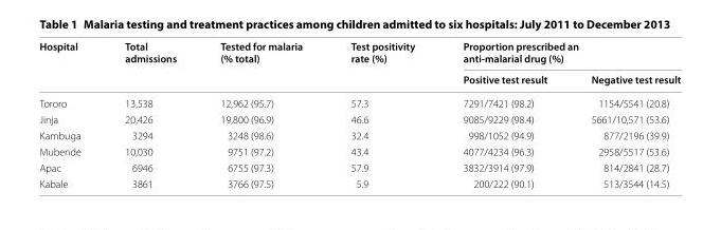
<table><thead><tr><td rowspan="2">Hospital</td><td rowspan="2">Total admissions</td><td rowspan="2">Tested for malaria (% total)</td><td rowspan="2">Test positivity rate (%)</td><td colspan="2">Proportion prescribed an anti‑malarial drug (%)</td></tr><tr><td>Positive test result</td><td>Negative test result</td></tr></thead><tbody><tr><td>Tororo</td><td>13,538</td><td>12,962 (95.7)</td><td>57.3</td><td>7291/7421 (98.2)</td><td>1154/5541 (20.8)</td></tr><tr><td>Jinja</td><td>20,426</td><td>19,800 (96.9)</td><td>46.6</td><td>9085/9229 (98.4)</td><td>5661/10,571 (53.6)</td></tr><tr><td>Kambuga</td><td>3294</td><td>3248 (98.6)</td><td>32.4</td><td>998/1052 (94.9)</td><td>877/2196 (39.9)</td></tr><tr><td>Mubende</td><td>10,030</td><td>9751 (97.2)</td><td>43.4</td><td>4077/4234 (96.3)</td><td>2958/5517 (53.6)</td></tr><tr><td>Apac</td><td>6946</td><td>6755 (97.3)</td><td>57.9</td><td>3832/3914 (97.9)</td><td>814/2841 (28.7)</td></tr><tr><td>Kabale</td><td>3861</td><td>3766 (97.5)</td><td>5.9</td><td>200/222 (90.1)</td><td>513/3544 (14.5)</td></tr></tbody></table>